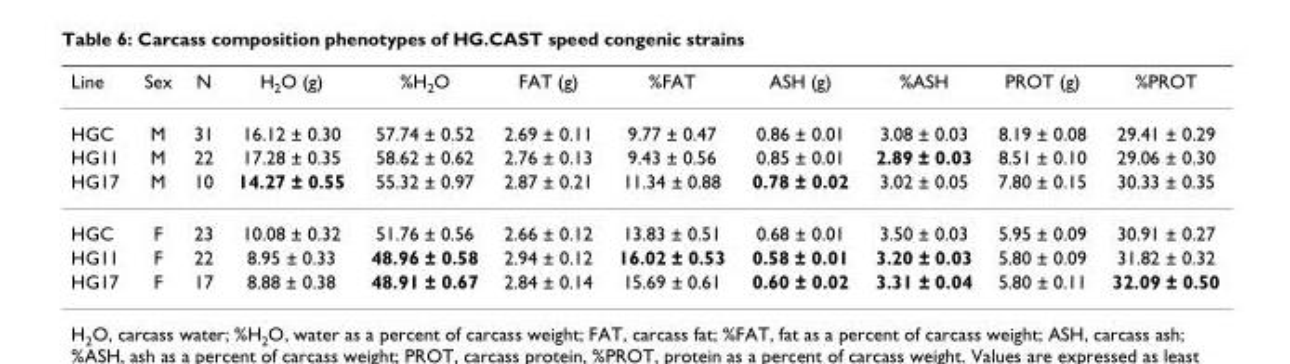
<table><thead><tr><td>Line</td><td>Sex</td><td>N</td><td>H2O (g)</td><td>%H2O</td><td>FAT (g)</td><td>%FAT</td><td>ASH (g)</td><td>%ASH</td><td>PROT (g)</td><td>%PROT</td></tr></thead><tbody><tr><td>HGC</td><td>M</td><td>31</td><td>16.12 ± 0.30</td><td>57.74 ± 0.52</td><td>2.69 ± 0.11</td><td>9.77 ± 0.47</td><td>0.86 ± 0.01</td><td>3.08 ± 0.03</td><td>8.19 ± 0.08</td><td>29.41 ± 0.29</td></tr><tr><td>HG11</td><td>M</td><td>22</td><td>17.28 ± 0.35</td><td>58.62 ± 0.62</td><td>2.76 ± 0.13</td><td>9.43 ± 0.56</td><td>0.85 ± 0.01</td><td>2.89 ± 0.03</td><td>8.51 ± 0.10</td><td>29.06 ± 0.30</td></tr><tr><td>HG17</td><td>M</td><td>10</td><td>14.27 ± 0.55</td><td>55.32 ± 0.97</td><td>2.87 ± 0.21</td><td>11.34 ± 0.88</td><td>0.78 ± 0.02</td><td>3.02 ± 0.05</td><td>7.80 ± 0.15</td><td>30.33 ± 0.35</td></tr><tr><td>HGC</td><td>F</td><td>23</td><td>10.08 ± 0.32</td><td>51.76 ± 0.56</td><td>2.66 ± 0.12</td><td>13.83 ± 0.51</td><td>0.68 ± 0.01</td><td>3.50 ± 0.03</td><td>5.95 ± 0.09</td><td>30.91 ± 0.27</td></tr><tr><td>HG11</td><td>F</td><td>22</td><td>8.95 ± 0.33</td><td>48.96 ± 0.58</td><td>2.94 ± 0.12</td><td>16.02 ± 0.53</td><td>0.58 ± 0.01</td><td>3.20 ± 0.03</td><td>5.80 ± 0.09</td><td>31.82 ± 0.32</td></tr><tr><td>HG17</td><td>F</td><td>17</td><td>8.88 ± 0.38</td><td>48.91 ± 0.67</td><td>2.84 ± 0.14</td><td>15.69 ± 0.61</td><td>0.60 ± 0.02</td><td>3.31 ± 0.04</td><td>5.80 ± 0.11</td><td>32.09 ± 0.50</td></tr></tbody></table>